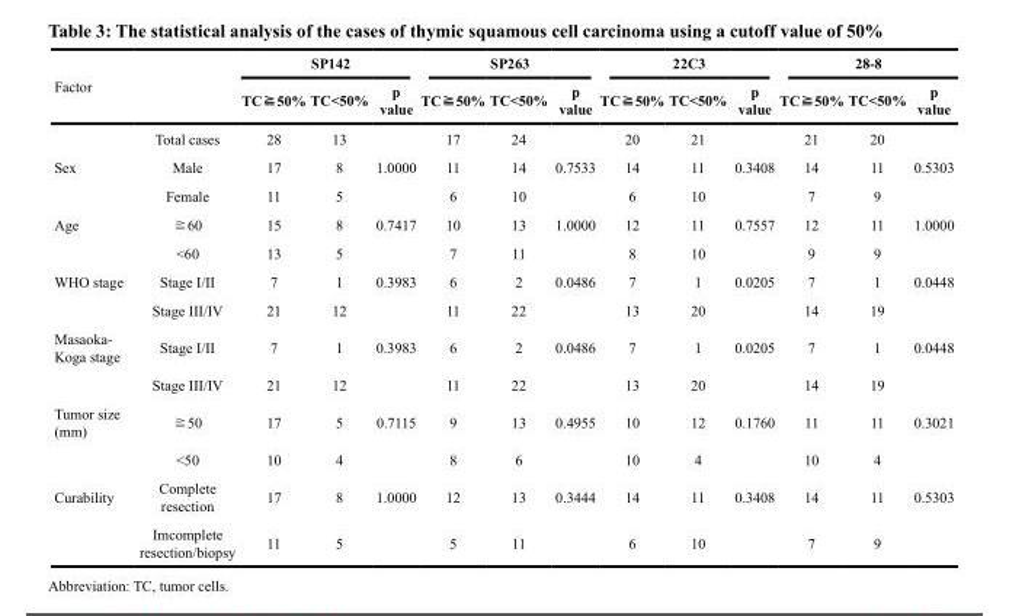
<table><thead><tr><td rowspan="2" colspan="2">Factor</td><td colspan="3">SP142</td><td colspan="3">SP263</td><td colspan="3">22C3</td><td colspan="3">28-8</td></tr><tr><td rowspan="2">TC≧50% 28</td><td rowspan="2">TC&lt;50% 13</td><td rowspan="2">p value</td><td rowspan="2">TC≧50% 17</td><td rowspan="2">TC&lt;50% 24</td><td rowspan="2">p value</td><td rowspan="2">TC≧50% 20</td><td rowspan="2">TC&lt;50% 21</td><td rowspan="2">p value</td><td rowspan="2">TC≧50% 21</td><td rowspan="2">TC&lt;50% 20</td><td rowspan="2">p value</td></tr><tr><td></td><td>Total cases</td></tr></thead><tbody><tr><td rowspan="2">Sex</td><td>Male</td><td>17</td><td>8</td><td>1.0000</td><td>11</td><td>14</td><td>0.7533</td><td>14</td><td>11</td><td>0.3408</td><td>14</td><td>11</td><td>0.5303</td></tr><tr><td>Female</td><td>11</td><td>5</td><td></td><td>6</td><td>10</td><td></td><td>6</td><td>10</td><td></td><td>7</td><td>9</td><td></td></tr><tr><td rowspan="2">Age</td><td>≧60</td><td>15</td><td>8</td><td>0.7417</td><td>10</td><td>13</td><td>1.0000</td><td>12</td><td>11</td><td>0.7557</td><td>12</td><td>11</td><td>1.0000</td></tr><tr><td>&lt;60</td><td>13</td><td>5</td><td></td><td>7</td><td>11</td><td></td><td>8</td><td>10</td><td></td><td>9</td><td>9</td><td></td></tr><tr><td rowspan="2">WHO stage</td><td>Stage I/II</td><td>7</td><td>1</td><td>0.3983</td><td>6</td><td>2</td><td>0.0486</td><td>7</td><td>1</td><td>0.0205</td><td>7</td><td>1</td><td>0.0448</td></tr><tr><td>Stage III/IV</td><td>21</td><td>12</td><td></td><td>11</td><td>22</td><td></td><td>13</td><td>20</td><td></td><td>14</td><td>19</td><td></td></tr><tr><td rowspan="2">Masaoka- Koga stage</td><td>Stage I/II</td><td>7</td><td>1</td><td>0.3983</td><td>6</td><td>2</td><td>0.0486</td><td>7</td><td>1</td><td>0.0205</td><td>7</td><td>1</td><td>0.0448</td></tr><tr><td>Stage III/IV</td><td>21</td><td>12</td><td></td><td>11</td><td>22</td><td></td><td>13</td><td>20</td><td></td><td>14</td><td>19</td><td></td></tr><tr><td rowspan="2">Tumor size (mm)</td><td>≧50</td><td>17</td><td>5</td><td>0.7115</td><td>9</td><td>13</td><td>0.4955</td><td>10</td><td>12</td><td>0.1760</td><td>11</td><td>11</td><td>0.3021</td></tr><tr><td>&lt;50</td><td>10</td><td>4</td><td></td><td>8</td><td>6</td><td></td><td>10</td><td>4</td><td></td><td>10</td><td>4</td><td></td></tr><tr><td rowspan="2">Curability</td><td>Complete resection</td><td>17</td><td>8</td><td>1.0000</td><td>12</td><td>13</td><td>0.3444</td><td>14</td><td>11</td><td>0.3408</td><td>14</td><td>11</td><td>0.5303</td></tr><tr><td>Imcomplete resection/biopsy</td><td>11</td><td>5</td><td></td><td>5</td><td>11</td><td></td><td>6</td><td>10</td><td></td><td>7</td><td>9</td><td></td></tr></tbody></table>